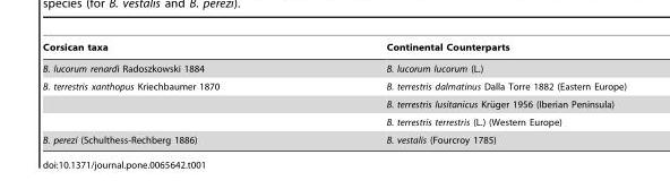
<table><thead><tr><td>Corsican taxa</td><td>Continental Counterparts</td></tr></thead><tbody><tr><td>B. lucorum renardi Radoszkowski 1884</td><td>B. lucorum lucorum (L.)</td></tr><tr><td rowspan="3">B. terrestris xanthopus Kriechbaumer 1870</td><td>B. terrestris dalmatinus Dalla Torre 1882 (Eastern Europe)</td></tr><tr><td>B. terrestris lusitanicus Kru¨ger 1956 (Iberian Peninsula)</td></tr><tr><td>B. terrestris terrestris (L.) (Western Europe)</td></tr><tr><td>B. perezi (Schulthess-Rechberg 1886)</td><td>B. vestalis (Fourcroy 1785)</td></tr></tbody></table>